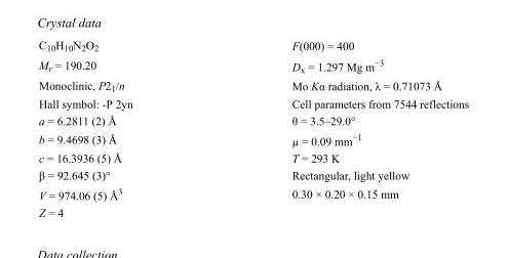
<table><tbody><tr><td>C<sub>10</sub>H<sub>10</sub>N<sub>2</sub>O<sub>2</sub></td><td>F(000) = 400</td></tr><tr><td>M<sub>r</sub> = 190.20</td><td>D<sub>x</sub> = 1.297 Mg m<sup>−3</sup></td></tr><tr><td>Monoclinic, P2<sub>1</sub>/n</td><td>Mo Kα radiation, λ = 0.71073 Å</td></tr><tr><td>Hall symbol: -P 2yn</td><td>Cell parameters from 7544 reflections</td></tr><tr><td>a = 6.2811 (2) Å</td><td>θ = 3.5–29.0°</td></tr><tr><td>b = 9.4698 (3) Å</td><td>µ = 0.09 mm<sup>−1</sup></td></tr><tr><td>c = 16.3936 (5) Å</td><td>T = 293 K</td></tr><tr><td>β = 92.645 (3)°</td><td>Rectangular, light yellow</td></tr><tr><td>V = 974.06 (5) Å<sup>3</sup></td><td>0.30 × 0.20 × 0.15 mm</td></tr><tr><td>Z = 4</td><td></td></tr></tbody></table>